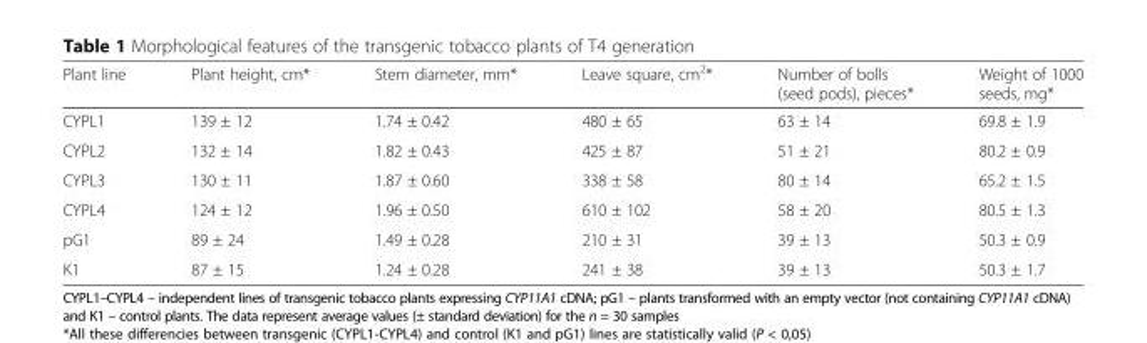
<table><thead><tr><td>Plant line</td><td>Plant height, cm*</td><td>Stem diameter, mm*</td><td>Leave square, cm<sup>2</sup>*</td><td>Number of bolls (seed pods), pieces*</td><td>Weight of 1000 seeds, mg*</td></tr></thead><tbody><tr><td>CYPL1</td><td>139 ± 12</td><td>1.74 ± 0.42</td><td>480 ± 65</td><td>63 ± 14</td><td>69.8 ± 1.9</td></tr><tr><td>CYPL2</td><td>132 ± 14</td><td>1.82 ± 0.43</td><td>425 ± 87</td><td>51 ± 21</td><td>80.2 ± 0.9</td></tr><tr><td>CYPL3</td><td>130 ± 11</td><td>1.87 ± 0.60</td><td>338 ± 58</td><td>80 ± 14</td><td>65.2 ± 1.5</td></tr><tr><td>CYPL4</td><td>124 ± 12</td><td>1.96 ± 0.50</td><td>610 ± 102</td><td>58 ± 20</td><td>80.5 ± 1.3</td></tr><tr><td>pG1</td><td>89 ± 24</td><td>1.49 ± 0.28</td><td>210 ± 31</td><td>39 ± 13</td><td>50.3 ± 0.9</td></tr><tr><td>K1</td><td>87 ± 15</td><td>1.24 ± 0.28</td><td>241 ± 38</td><td>39 ± 13</td><td>50.3 ± 1.7</td></tr></tbody></table>